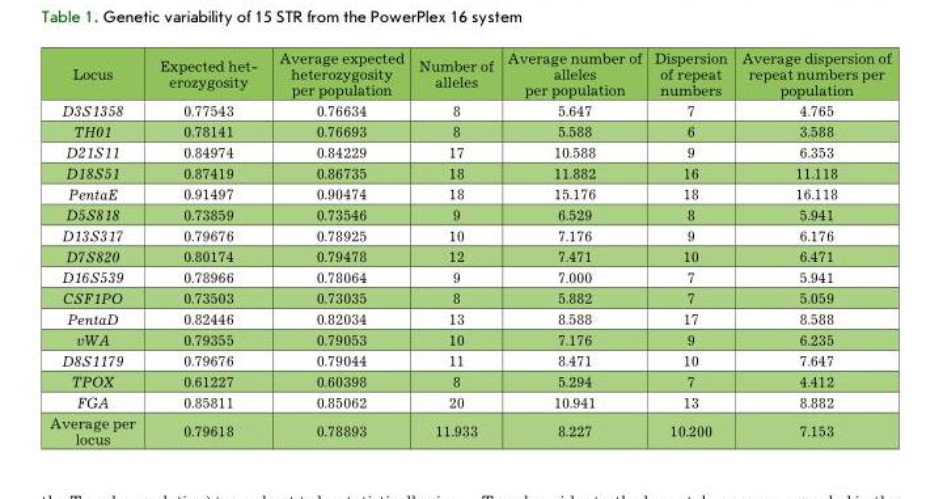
<table><thead><tr><td>Locus</td><td>Expected het- erozygosity</td><td>Average expected heterozygosity per population</td><td>Number of alleles</td><td>Average number of alleles per population</td><td>Dispersion of repeat numbers</td><td>Average dispersion of repeat numbers per population</td></tr></thead><tbody><tr><td>D3S1358</td><td>0.77543</td><td>0.76634</td><td>8</td><td>5.647</td><td>7</td><td>4.765</td></tr><tr><td>TH01</td><td>0.78141</td><td>0.76693</td><td>8</td><td>5.588</td><td>6</td><td>3.588</td></tr><tr><td>D21S11</td><td>0.84974</td><td>0.84229</td><td>17</td><td>10.588</td><td>9</td><td>6.353</td></tr><tr><td>D18S51</td><td>0.87419</td><td>0.86735</td><td>18</td><td>11.882</td><td>16</td><td>11.118</td></tr><tr><td>PentaE</td><td>0.91497</td><td>0.90474</td><td>18</td><td>15.176</td><td>18</td><td>16.118</td></tr><tr><td>D5S818</td><td>0.73859</td><td>0.73546</td><td>9</td><td>6.529</td><td>8</td><td>5.941</td></tr><tr><td>D13S317</td><td>0.79676</td><td>0.78925</td><td>10</td><td>7.176</td><td>9</td><td>6.176</td></tr><tr><td>D7S820</td><td>0.80174</td><td>0.79478</td><td>12</td><td>7.471</td><td>10</td><td>6.471</td></tr><tr><td>D16S539</td><td>0.78966</td><td>0.78064</td><td>9</td><td>7.000</td><td>7</td><td>5.941</td></tr><tr><td>CSF1PO</td><td>0.73503</td><td>0.73035</td><td>8</td><td>5.882</td><td>7</td><td>5.059</td></tr><tr><td>PentaD</td><td>0.82446</td><td>0.82034</td><td>13</td><td>8.588</td><td>17</td><td>8.588</td></tr><tr><td>vWA</td><td>0.79355</td><td>0.79053</td><td>10</td><td>7.176</td><td>9</td><td>6.235</td></tr><tr><td>D8S1179</td><td>0.79676</td><td>0.79044</td><td>11</td><td>8.471</td><td>10</td><td>7.647</td></tr><tr><td>TPOX</td><td>0.61227</td><td>0.60398</td><td>8</td><td>5.294</td><td>7</td><td>4.412</td></tr><tr><td>FGA</td><td>0.85811</td><td>0.85062</td><td>20</td><td>10.941</td><td>13</td><td>8.882</td></tr><tr><td>Average per locus</td><td>0.79618</td><td>0.78893</td><td>11.933</td><td>8.227</td><td>10.200</td><td>7.153</td></tr></tbody></table>